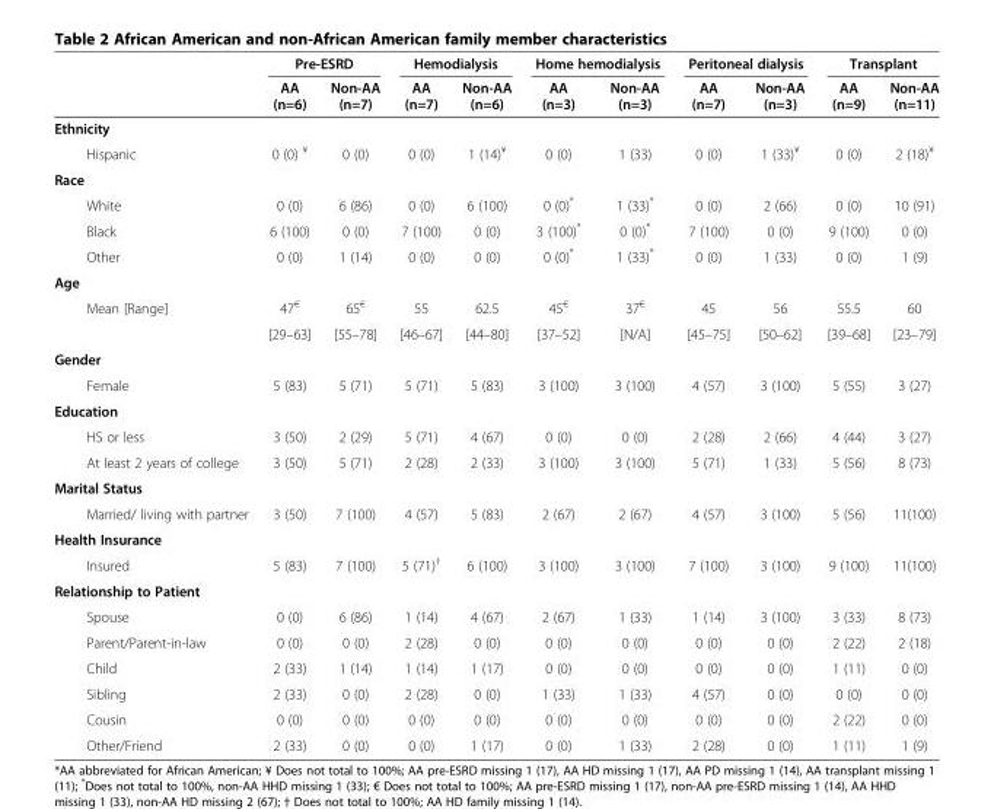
<table><thead><tr><td rowspan="2"></td><td colspan="2">Pre-ESRD</td><td colspan="2">Hemodialysis</td><td colspan="2">Home hemodialysis</td><td colspan="2">Peritoneal dialysis</td><td colspan="2">Transplant</td></tr><tr><td>AA (n=6)</td><td>Non-AA (n=7)</td><td>AA (n=7)</td><td>Non-AA (n=6)</td><td>AA (n=3)</td><td>Non-AA (n=3)</td><td>AA (n=7)</td><td>Non-AA (n=3)</td><td>AA (n=9)</td><td>Non-AA (n=11)</td></tr></thead><tbody><tr><td colspan="11">Ethnicity</td></tr><tr><td>Hispanic</td><td>0 (0) <sup>¥</sup></td><td>0 (0)</td><td>0 (0)</td><td>1 (14)<sup>¥</sup></td><td>0 (0)</td><td>1 (33)</td><td>0 (0)</td><td>1 (33)<sup>¥</sup></td><td>0 (0)</td><td>2 (18)<sup>¥</sup></td></tr><tr><td colspan="11">Race</td></tr><tr><td>White</td><td>0 (0)</td><td>6 (86)</td><td>0 (0)</td><td>6 (100)</td><td>0 (0)*</td><td>1 (33)*</td><td>0 (0)</td><td>2 (66)</td><td>0 (0)</td><td>10 (91)</td></tr><tr><td>Black</td><td>6 (100)</td><td>0 (0)</td><td>7 (100)</td><td>0 (0)</td><td>3 (100)*</td><td>0 (0)*</td><td>7 (100)</td><td>0 (0)</td><td>9 (100)</td><td>0 (0)</td></tr><tr><td>Other</td><td>0 (0)</td><td>1 (14)</td><td>0 (0)</td><td>0 (0)</td><td>0 (0)*</td><td>1 (33)*</td><td>0 (0)</td><td>1 (33)</td><td>0 (0)</td><td>1 (9)</td></tr><tr><td colspan="11">Age</td></tr><tr><td rowspan="2">Mean [Range]</td><td>47<sup>€</sup></td><td>65<sup>€</sup></td><td>55</td><td>62.5</td><td>45<sup>€</sup></td><td>37<sup>€</sup></td><td>45</td><td>56</td><td>55.5</td><td>60</td></tr><tr><td>[29–63]</td><td>[55–78]</td><td>[46–67]</td><td>[44–80]</td><td>[37–52]</td><td>[N/A]</td><td>[45–75]</td><td>[50–62]</td><td>[39–68]</td><td>[23–79]</td></tr><tr><td colspan="11">Gender</td></tr><tr><td>Female</td><td>5 (83)</td><td>5 (71)</td><td>5 (71)</td><td>5 (83)</td><td>3 (100)</td><td>3 (100)</td><td>4 (57)</td><td>3 (100)</td><td>5 (55)</td><td>3 (27)</td></tr><tr><td colspan="11">Education</td></tr><tr><td>HS or less</td><td>3 (50)</td><td>2 (29)</td><td>5 (71)</td><td>4 (67)</td><td>0 (0)</td><td>0 (0)</td><td>2 (28)</td><td>2 (66)</td><td>4 (44)</td><td>3 (27)</td></tr><tr><td>At least 2 years of college</td><td>3 (50)</td><td>5 (71)</td><td>2 (28)</td><td>2 (33)</td><td>3 (100)</td><td>3 (100)</td><td>5 (71)</td><td>1 (33)</td><td>5 (56)</td><td>8 (73)</td></tr><tr><td colspan="11">Marital Status</td></tr><tr><td>Married/ living with partner</td><td>3 (50)</td><td>7 (100)</td><td>4 (57)</td><td>5 (83)</td><td>2 (67)</td><td>2 (67)</td><td>4 (57)</td><td>3 (100)</td><td>5 (56)</td><td>11(100)</td></tr><tr><td colspan="11">Health Insurance</td></tr><tr><td>Insured</td><td>5 (83)</td><td>7 (100)</td><td>5 (71)<sup>†</sup></td><td>6 (100)</td><td>3 (100)</td><td>3 (100)</td><td>7 (100)</td><td>3 (100)</td><td>9 (100)</td><td>11(100)</td></tr><tr><td colspan="11">Relationship to Patient</td></tr><tr><td>Spouse</td><td>0 (0)</td><td>6 (86)</td><td>1 (14)</td><td>4 (67)</td><td>2 (67)</td><td>1 (33)</td><td>1 (14)</td><td>3 (100)</td><td>3 (33)</td><td>8 (73)</td></tr><tr><td>Parent/Parent-in-law</td><td>0 (0)</td><td>0 (0)</td><td>2 (28)</td><td>0 (0)</td><td>0 (0)</td><td>0 (0)</td><td>0 (0)</td><td>0 (0)</td><td>2 (22)</td><td>2 (18)</td></tr><tr><td>Child</td><td>2 (33)</td><td>1 (14)</td><td>1 (14)</td><td>1 (17)</td><td>0 (0)</td><td>0 (0)</td><td>0 (0)</td><td>0 (0)</td><td>1 (11)</td><td>0 (0)</td></tr><tr><td>Sibling</td><td>2 (33)</td><td>0 (0)</td><td>2 (28)</td><td>0 (0)</td><td>1 (33)</td><td>1 (33)</td><td>4 (57)</td><td>0 (0)</td><td>0 (0)</td><td>0 (0)</td></tr><tr><td>Cousin</td><td>0 (0)</td><td>0 (0)</td><td>0 (0)</td><td>0 (0)</td><td>0 (0)</td><td>0 (0)</td><td>0 (0)</td><td>0 (0)</td><td>2 (22)</td><td>0 (0)</td></tr><tr><td>Other/Friend</td><td>2 (33)</td><td>0 (0)</td><td>0 (0)</td><td>1 (17)</td><td>0 (0)</td><td>1 (33)</td><td>2 (28)</td><td>0 (0)</td><td>1 (11)</td><td>1 (9)</td></tr></tbody></table>